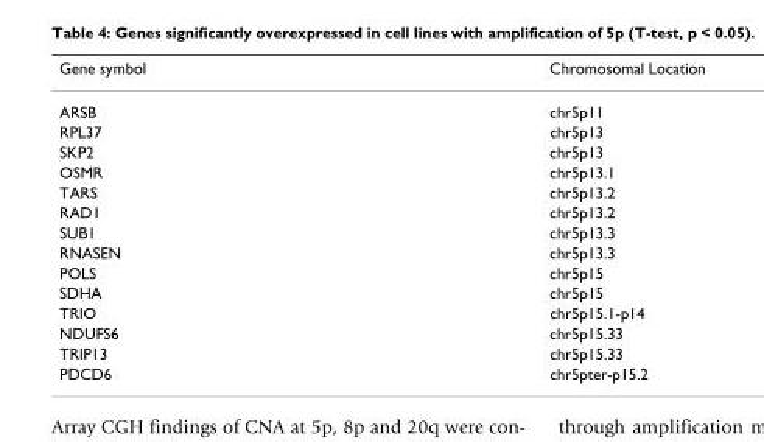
<table><thead><tr><td>Gene symbol</td><td>Chromosomal Location</td></tr></thead><tbody><tr><td>ARSB</td><td>chr5p11</td></tr><tr><td>RPL37</td><td>chr5p13</td></tr><tr><td>SKP2</td><td>chr5p13</td></tr><tr><td>OSMR</td><td>chr5p13.1</td></tr><tr><td>TARS</td><td>chr5p13.2</td></tr><tr><td>RAD1</td><td>chr5p13.2</td></tr><tr><td>SUB1</td><td>chr5p13.3</td></tr><tr><td>RNASEN</td><td>chr5p13.3</td></tr><tr><td>POLS</td><td>chr5p15</td></tr><tr><td>SDHA</td><td>chr5p15</td></tr><tr><td>TRIO</td><td>chr5p15.1-p14</td></tr><tr><td>NDUFS6</td><td>chr5p15.33</td></tr><tr><td>TRIP13</td><td>chr5p15.33</td></tr><tr><td>PDCD6</td><td>chr5pter-p15.2</td></tr></tbody></table>